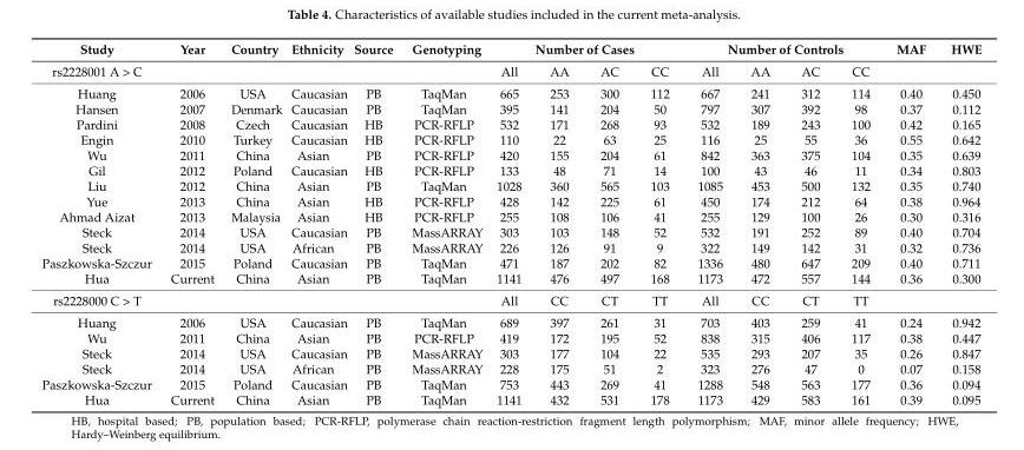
<table><thead><tr><td rowspan="2">Study rs2228001 A &gt; C</td><td rowspan="2">Year</td><td rowspan="2">Country</td><td rowspan="2">Ethnicity</td><td rowspan="2">Source</td><td rowspan="2">Genotyping</td><td colspan="4">Number of Cases</td><td colspan="4">Number of Controls</td><td rowspan="2">MAF</td><td rowspan="2">HWE</td></tr><tr><td>All</td><td>AA</td><td>AC</td><td>CC</td><td>All</td><td>AA</td><td>AC</td><td>CC</td></tr></thead><tbody><tr><td>Huang</td><td>2006</td><td>USA</td><td>Caucasian</td><td>PB</td><td>TaqMan</td><td>665</td><td>253</td><td>300</td><td>112</td><td>667</td><td>241</td><td>312</td><td>114</td><td>0.40</td><td>0.450</td></tr><tr><td>Hansen</td><td>2007</td><td>Denmark</td><td>Caucasian</td><td>PB</td><td>TaqMan</td><td>395</td><td>141</td><td>204</td><td>50</td><td>797</td><td>307</td><td>392</td><td>98</td><td>0.37</td><td>0.112</td></tr><tr><td>Pardini</td><td>2008</td><td>Czech</td><td>Caucasian</td><td>HB</td><td>PCR-RFLP</td><td>532</td><td>171</td><td>268</td><td>93</td><td>532</td><td>189</td><td>243</td><td>100</td><td>0.42</td><td>0.165</td></tr><tr><td>Engin</td><td>2010</td><td>Turkey</td><td>Caucasian</td><td>HB</td><td>PCR-RFLP</td><td>110</td><td>22</td><td>63</td><td>25</td><td>116</td><td>25</td><td>55</td><td>36</td><td>0.55</td><td>0.642</td></tr><tr><td>Wu</td><td>2011</td><td>China</td><td>Asian</td><td>PB</td><td>PCR-RFLP</td><td>420</td><td>155</td><td>204</td><td>61</td><td>842</td><td>363</td><td>375</td><td>104</td><td>0.35</td><td>0.639</td></tr><tr><td>Gil</td><td>2012</td><td>Poland</td><td>Caucasian</td><td>HB</td><td>PCR-RFLP</td><td>133</td><td>48</td><td>71</td><td>14</td><td>100</td><td>43</td><td>46</td><td>11</td><td>0.34</td><td>0.803</td></tr><tr><td>Liu</td><td>2012</td><td>China</td><td>Asian</td><td>PB</td><td>TaqMan</td><td>1028</td><td>360</td><td>565</td><td>103</td><td>1085</td><td>453</td><td>500</td><td>132</td><td>0.35</td><td>0.740</td></tr><tr><td>Yue</td><td>2013</td><td>China</td><td>Asian</td><td>HB</td><td>PCR-RFLP</td><td>428</td><td>142</td><td>225</td><td>61</td><td>450</td><td>174</td><td>212</td><td>64</td><td>0.38</td><td>0.964</td></tr><tr><td>Ahmad Aizat</td><td>2013</td><td>Malaysia</td><td>Asian</td><td>HB</td><td>PCR-RFLP</td><td>255</td><td>108</td><td>106</td><td>41</td><td>255</td><td>129</td><td>100</td><td>26</td><td>0.30</td><td>0.316</td></tr><tr><td>Steck</td><td>2014</td><td>USA</td><td>Caucasian</td><td>PB</td><td>MassARRAY</td><td>303</td><td>103</td><td>148</td><td>52</td><td>532</td><td>191</td><td>252</td><td>89</td><td>0.40</td><td>0.704</td></tr><tr><td>Steck</td><td>2014</td><td>USA</td><td>African</td><td>PB</td><td>MassARRAY</td><td>226</td><td>126</td><td>91</td><td>9</td><td>322</td><td>149</td><td>142</td><td>31</td><td>0.32</td><td>0.736</td></tr><tr><td>Paszkowska-Szczur</td><td>2015</td><td>Poland</td><td>Caucasian</td><td>PB</td><td>TaqMan</td><td>471</td><td>187</td><td>202</td><td>82</td><td>1336</td><td>480</td><td>647</td><td>209</td><td>0.40</td><td>0.711</td></tr><tr><td>Hua</td><td>Current</td><td>China</td><td>Asian</td><td>PB</td><td>TaqMan</td><td>1141</td><td>476</td><td>497</td><td>168</td><td>1173</td><td>472</td><td>557</td><td>144</td><td>0.36</td><td>0.300</td></tr><tr><td>rs2228000 C &gt; T</td><td></td><td></td><td></td><td></td><td></td><td>All</td><td>CC</td><td>CT</td><td>TT</td><td>All</td><td>CC</td><td>CT</td><td>TT</td><td></td><td></td></tr><tr><td>Huang</td><td>2006</td><td>USA</td><td>Caucasian</td><td>PB</td><td>TaqMan</td><td>689</td><td>397</td><td>261</td><td>31</td><td>703</td><td>403</td><td>259</td><td>41</td><td>0.24</td><td>0.942</td></tr><tr><td>Wu</td><td>2011</td><td>China</td><td>Asian</td><td>PB</td><td>PCR-RFLP</td><td>419</td><td>172</td><td>195</td><td>52</td><td>838</td><td>315</td><td>406</td><td>117</td><td>0.38</td><td>0.447</td></tr><tr><td>Steck</td><td>2014</td><td>USA</td><td>Caucasian</td><td>PB</td><td>MassARRAY</td><td>303</td><td>177</td><td>104</td><td>22</td><td>535</td><td>293</td><td>207</td><td>35</td><td>0.26</td><td>0.847</td></tr><tr><td>Steck</td><td>2014</td><td>USA</td><td>African</td><td>PB</td><td>MassARRAY</td><td>228</td><td>175</td><td>51</td><td>2</td><td>323</td><td>276</td><td>47</td><td>0</td><td>0.07</td><td>0.158</td></tr><tr><td>Paszkowska-Szczur</td><td>2015</td><td>Poland</td><td>Caucasian</td><td>PB</td><td>TaqMan</td><td>753</td><td>443</td><td>269</td><td>41</td><td>1288</td><td>548</td><td>563</td><td>177</td><td>0.36</td><td>0.094</td></tr><tr><td>Hua</td><td>Current</td><td>China</td><td>Asian</td><td>PB</td><td>TaqMan</td><td>1141</td><td>432</td><td>531</td><td>178</td><td>1173</td><td>429</td><td>583</td><td>161</td><td>0.39</td><td>0.095</td></tr></tbody></table>